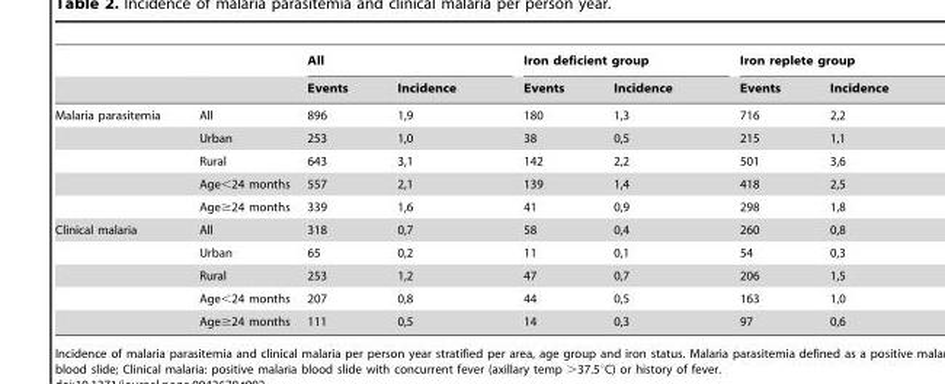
<table><thead><tr><td rowspan="2"></td><td rowspan="2"></td><td colspan="2">All</td><td colspan="2">Iron deficient group</td><td colspan="2">Iron replete group</td></tr><tr><td>Events</td><td>Incidence</td><td>Events</td><td>Incidence</td><td>Events</td><td>Incidence</td></tr></thead><tbody><tr><td rowspan="5">Malaria parasitemia</td><td>All</td><td>896</td><td>1,9</td><td>180</td><td>1,3</td><td>716</td><td>2,2</td></tr><tr><td>Urban</td><td>253</td><td>1,0</td><td>38</td><td>0,5</td><td>215</td><td>1,1</td></tr><tr><td>Rural</td><td>643</td><td>3,1</td><td>142</td><td>2,2</td><td>501</td><td>3,6</td></tr><tr><td>Age&lt;24 months</td><td>557</td><td>2,1</td><td>139</td><td>1,4</td><td>418</td><td>2,5</td></tr><tr><td>Age≥24 months</td><td>339</td><td>1,6</td><td>41</td><td>0,9</td><td>298</td><td>1,8</td></tr><tr><td rowspan="5">Clinical malaria</td><td>All</td><td>318</td><td>0,7</td><td>58</td><td>0,4</td><td>260</td><td>0,8</td></tr><tr><td>Urban</td><td>65</td><td>0,2</td><td>11</td><td>0,1</td><td>54</td><td>0,3</td></tr><tr><td>Rural</td><td>253</td><td>1,2</td><td>47</td><td>0,7</td><td>206</td><td>1,5</td></tr><tr><td>Age&lt;24 months</td><td>207</td><td>0,8</td><td>44</td><td>0,5</td><td>163</td><td>1,0</td></tr><tr><td>Age≥24 months</td><td>111</td><td>0,5</td><td>14</td><td>0,3</td><td>97</td><td>0,6</td></tr></tbody></table>